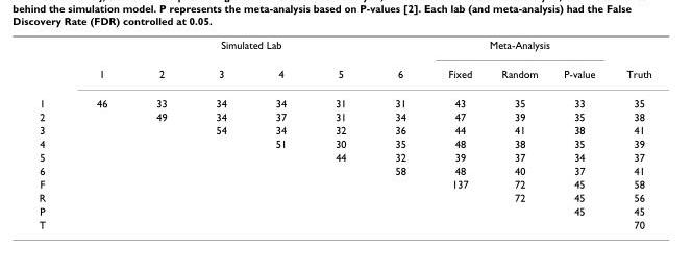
<table><thead><tr><td rowspan="2"></td><td colspan="6">Simulated Lab</td><td colspan="3">Meta-Analysis</td><td rowspan="2">Truth</td></tr><tr><td>1</td><td>2</td><td>3</td><td>4</td><td>5</td><td>6</td><td>Fixed</td><td>Random</td><td>P-value</td></tr></thead><tbody><tr><td>1</td><td>46</td><td>33</td><td>34</td><td>34</td><td>31</td><td>31</td><td>43</td><td>35</td><td>33</td><td>35</td></tr><tr><td>2</td><td></td><td>49</td><td>34</td><td>37</td><td>31</td><td>34</td><td>47</td><td>39</td><td>35</td><td>38</td></tr><tr><td>3</td><td></td><td></td><td>54</td><td>34</td><td>32</td><td>36</td><td>44</td><td>41</td><td>38</td><td>41</td></tr><tr><td>4</td><td></td><td></td><td></td><td>51</td><td>30</td><td>35</td><td>48</td><td>38</td><td>35</td><td>39</td></tr><tr><td>5</td><td></td><td></td><td></td><td></td><td>44</td><td>32</td><td>39</td><td>37</td><td>34</td><td>37</td></tr><tr><td>6</td><td></td><td></td><td></td><td></td><td></td><td>58</td><td>48</td><td>40</td><td>37</td><td>41</td></tr><tr><td>F</td><td></td><td></td><td></td><td></td><td></td><td></td><td>137</td><td>72</td><td>45</td><td>58</td></tr><tr><td>R</td><td></td><td></td><td></td><td></td><td></td><td></td><td></td><td>72</td><td>45</td><td>56</td></tr><tr><td>P</td><td></td><td></td><td></td><td></td><td></td><td></td><td></td><td></td><td>45</td><td>45</td></tr><tr><td>T</td><td></td><td></td><td></td><td></td><td></td><td></td><td></td><td></td><td></td><td>70</td></tr></tbody></table>